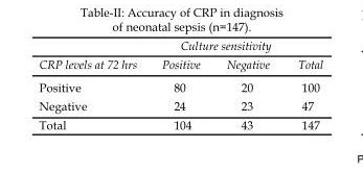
<table><thead><tr><td rowspan="2">CRP levels at 72 hrs</td><td colspan="2">Culture sensitivity</td><td rowspan="2">Total</td></tr><tr><td>Positive</td><td>Negative</td></tr></thead><tbody><tr><td>Positive</td><td>80</td><td>20</td><td>100</td></tr><tr><td>Negative</td><td>24</td><td>23</td><td>47</td></tr><tr><td>Total</td><td>104</td><td>43</td><td>147</td></tr></tbody></table>